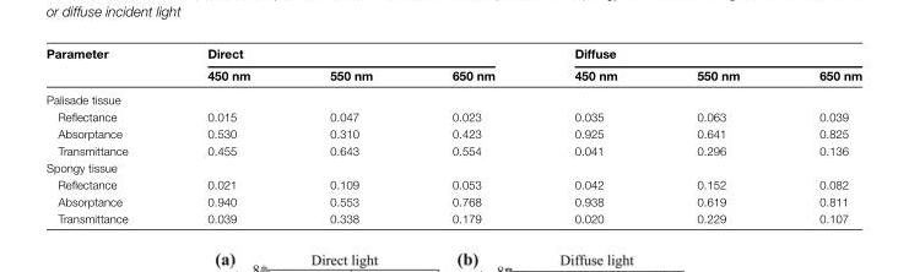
<table><thead><tr><td rowspan="2">Parameter</td><td colspan="3">Direct</td><td colspan="3">Diffuse</td></tr><tr><td>450 nm</td><td>550 nm</td><td>650 nm</td><td>450 nm</td><td>550 nm</td><td>650 nm</td></tr></thead><tbody><tr><td colspan="7">Palisade tissue</td></tr><tr><td>Reflectance</td><td>0.015</td><td>0.047</td><td>0.023</td><td>0.035</td><td>0.063</td><td>0.039</td></tr><tr><td>Absorptance</td><td>0.530</td><td>0.310</td><td>0.423</td><td>0.925</td><td>0.641</td><td>0.825</td></tr><tr><td>Transmittance</td><td>0.455</td><td>0.643</td><td>0.554</td><td>0.041</td><td>0.296</td><td>0.136</td></tr><tr><td colspan="7">Spongy tissue</td></tr><tr><td>Reflectance</td><td>0.021</td><td>0.109</td><td>0.053</td><td>0.042</td><td>0.152</td><td>0.082</td></tr><tr><td>Absorptance</td><td>0.940</td><td>0.553</td><td>0.768</td><td>0.938</td><td>0.619</td><td>0.811</td></tr><tr><td>Transmittance</td><td>0.039</td><td>0.338</td><td>0.179</td><td>0.020</td><td>0.229</td><td>0.107</td></tr></tbody></table>